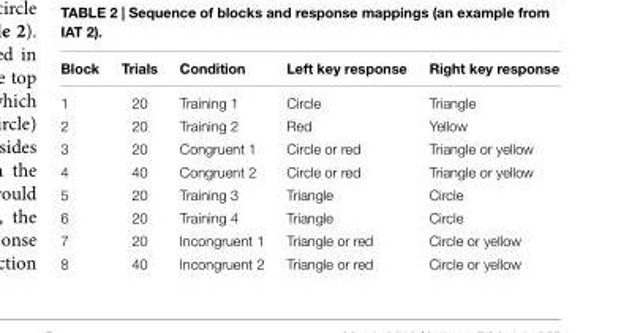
<table><thead><tr><td>Block</td><td>Trials</td><td>Condition</td><td>Left key response</td><td>Right key response</td></tr></thead><tbody><tr><td>1</td><td>20</td><td>Training 1</td><td>Circle</td><td>Triangle</td></tr><tr><td>2</td><td>20</td><td>Training 2</td><td>Red</td><td>Yellow</td></tr><tr><td>3</td><td>20</td><td>Congruent 1</td><td>Circle or red</td><td>Triangle or yellow</td></tr><tr><td>4</td><td>40</td><td>Congruent 2</td><td>Circle or red</td><td>Triangle or yellow</td></tr><tr><td>5</td><td>20</td><td>Training 3</td><td>Triangle</td><td>Circle</td></tr><tr><td>6</td><td>20</td><td>Training 4</td><td>Triangle</td><td>Circle</td></tr><tr><td>7</td><td>20</td><td>Incongruent 1</td><td>Triangle or red</td><td>Circle or yellow</td></tr><tr><td>8</td><td>40</td><td>Incongruent 2</td><td>Triangle or red</td><td>Circle or yellow</td></tr></tbody></table>